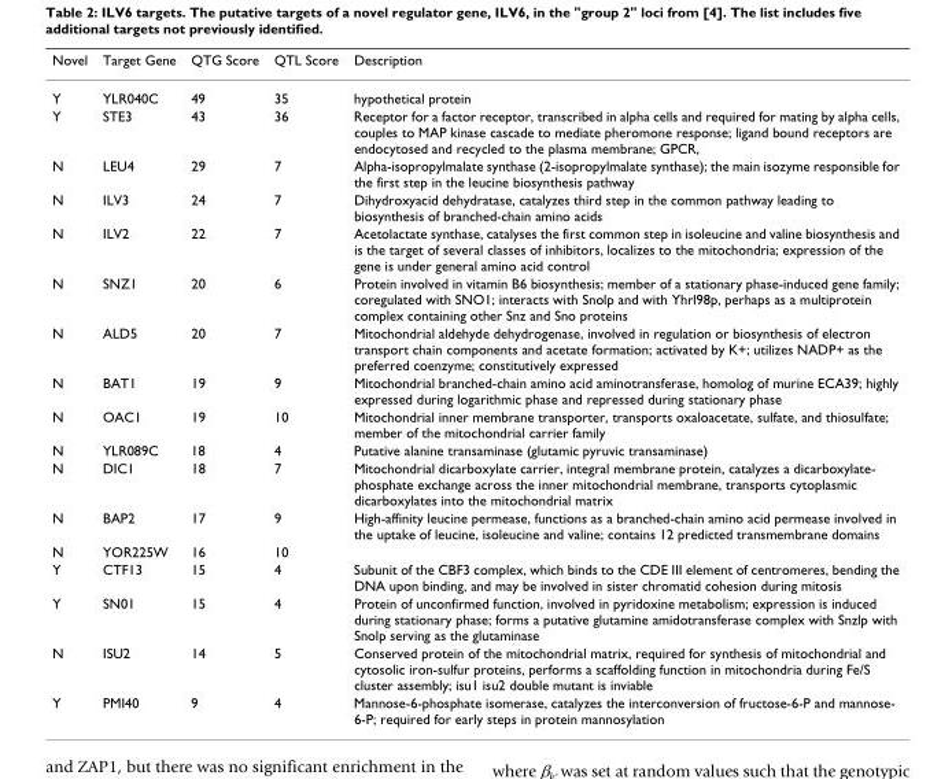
<table><thead><tr><td>Novel</td><td>Target Gene</td><td>QTG Score</td><td>QTL Score</td><td>Description</td></tr></thead><tbody><tr><td>Y</td><td>YLR040C</td><td>49</td><td>35</td><td>hypothetical protein</td></tr><tr><td>Y</td><td>STE3</td><td>43</td><td>36</td><td>Receptor for a factor receptor, transcribed in alpha cells and required for mating by alpha cells, couples to MAP kinase cascade to mediate pheromone response; ligand bound receptors are endocytosed and recycled to the plasma membrane; GPCR,</td></tr><tr><td>N</td><td>LEU4</td><td>29</td><td>7</td><td>Alpha-isopropylmalate synthase (2-isopropylmalate synthase); the main isozyme responsible for the first step in the leucine biosynthesis pathway</td></tr><tr><td>N</td><td>ILV3</td><td>24</td><td>7</td><td>Dihydroxyacid dehydratase, catalyzes third step in the common pathway leading to biosynthesis of branched-chain amino acids</td></tr><tr><td>N</td><td>ILV2</td><td>22</td><td>7</td><td>Acetolactate synthase, catalyses the first common step in isoleucine and valine biosynthesis and is the target of several classes of inhibitors, localizes to the mitochondria; expression of the gene is under general amino acid control</td></tr><tr><td>N</td><td>SNZ1</td><td>20</td><td>6</td><td>Protein involved in vitamin B6 biosynthesis; member of a stationary phase-induced gene family; coregulated with SNO1; interacts with Snolp and with Yhrl98p, perhaps as a multiprotein complex containing other Snz and Sno proteins</td></tr><tr><td>N</td><td>ALD5</td><td>20</td><td>7</td><td>Mitochondrial aldehyde dehydrogenase, involved in regulation or biosynthesis of electron transport chain components and acetate formation; activated by K+; utilizes NADP+ as the preferred coenzyme; constitutively expressed</td></tr><tr><td>N</td><td>BAT1</td><td>19</td><td>9</td><td>Mitochondrial branched-chain amino acid aminotransferase, homolog of murine ECA39; highly expressed during logarithmic phase and repressed during stationary phase</td></tr><tr><td>N</td><td>OAC1</td><td>19</td><td>10</td><td>Mitochondrial inner membrane transporter, transports oxaloacetate, sulfate, and thiosulfate; member of the mitochondrial carrier family</td></tr><tr><td>N</td><td>YLR089C</td><td>18</td><td>4</td><td>Putative alanine transaminase (glutamic pyruvic transaminase)</td></tr><tr><td>N</td><td>DIC1</td><td>18</td><td>7</td><td>Mitochondrial dicarboxylate carrier, integral membrane protein, catalyzes a dicarboxylate- phosphate exchange across the inner mitochondrial membrane, transports cytoplasmic dicarboxylates into the mitochondrial matrix</td></tr><tr><td>N</td><td>BAP2</td><td>17</td><td>9</td><td>High-affinity leucine permease, functions as a branched-chain amino acid permease involved in the uptake of leucine, isoleucine and valine; contains 12 predicted transmembrane domains</td></tr><tr><td>N</td><td>YOR225W</td><td>16</td><td>10</td><td></td></tr><tr><td>Y</td><td>CTF13</td><td>15</td><td>4</td><td>Subunit of the CBF3 complex, which binds to the CDE III element of centromeres, bending the DNA upon binding, and may be involved in sister chromatid cohesion during mitosis</td></tr><tr><td>Y</td><td>SN01</td><td>15</td><td>4</td><td>Protein of unconfirmed function, involved in pyridoxine metabolism; expression is induced during stationary phase; forms a putative glutamine amidotransferase complex with Snzlp with Snolp serving as the glutaminase</td></tr><tr><td>N</td><td>ISU2</td><td>14</td><td>5</td><td>Conserved protein of the mitochondrial matrix, required for synthesis of mitochondrial and cytosolic iron-sulfur proteins, performs a scaffolding function in mitochondria during Fe/S cluster assembly; isu1 isu2 double mutant is inviable</td></tr><tr><td>Y</td><td>PMI40</td><td>9</td><td>4</td><td>Mannose-6-phosphate isomerase, catalyzes the interconversion of fructose-6-P and mannose- 6-P; required for early steps in protein mannosylation</td></tr></tbody></table>